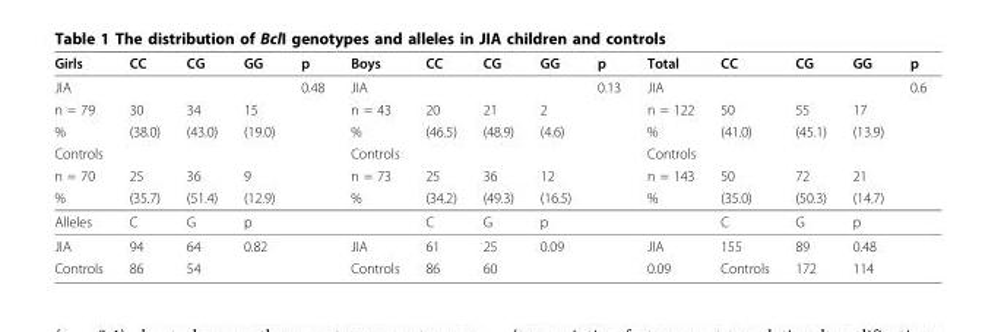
<table><thead><tr><td>Girls</td><td>CC</td><td>CG</td><td>GG</td><td>p</td><td>Boys</td><td>CC</td><td>CG</td><td>GG</td><td>p</td><td>Total</td><td>CC</td><td>CG</td><td>GG</td><td>p</td></tr></thead><tbody><tr><td>JIA</td><td></td><td></td><td></td><td>0.48</td><td>JIA</td><td></td><td></td><td></td><td>0.13</td><td>JIA</td><td></td><td></td><td></td><td>0.6</td></tr><tr><td>n = 79</td><td>30</td><td>34</td><td>15</td><td></td><td>n = 43</td><td>20</td><td>21</td><td>2</td><td></td><td>n = 122</td><td>50</td><td>55</td><td>17</td><td></td></tr><tr><td>%</td><td>(38.0)</td><td>(43.0)</td><td>(19.0)</td><td></td><td>%</td><td>(46.5)</td><td>(48.9)</td><td>(4.6)</td><td></td><td>%</td><td>(41.0)</td><td>(45.1)</td><td>(13.9)</td><td></td></tr><tr><td colspan="5">Controls</td><td colspan="5">Controls</td><td colspan="5">Controls</td></tr><tr><td>n = 70</td><td>25</td><td>36</td><td>9</td><td></td><td>n = 73</td><td>25</td><td>36</td><td>12</td><td></td><td>n = 143</td><td>50</td><td>72</td><td>21</td><td></td></tr><tr><td>%</td><td>(35.7)</td><td>(51.4)</td><td>(12.9)</td><td></td><td>%</td><td>(34.2)</td><td>(49.3)</td><td>(16.5)</td><td></td><td>%</td><td>(35.0)</td><td>(50.3)</td><td>(14.7)</td><td></td></tr><tr><td>Alleles</td><td>C</td><td>G</td><td>p</td><td></td><td></td><td>C</td><td>G</td><td>p</td><td></td><td></td><td>C</td><td>G</td><td>p</td><td></td></tr><tr><td>JIA</td><td>94</td><td>64</td><td>0.82</td><td></td><td>JIA</td><td>61</td><td>25</td><td>0.09</td><td></td><td>JIA</td><td>155</td><td>89</td><td>0.48</td><td></td></tr><tr><td>Controls</td><td>86</td><td>54</td><td></td><td></td><td>Controls</td><td>86</td><td>60</td><td></td><td></td><td>0.09</td><td>Controls</td><td>172</td><td>114</td><td></td></tr></tbody></table>